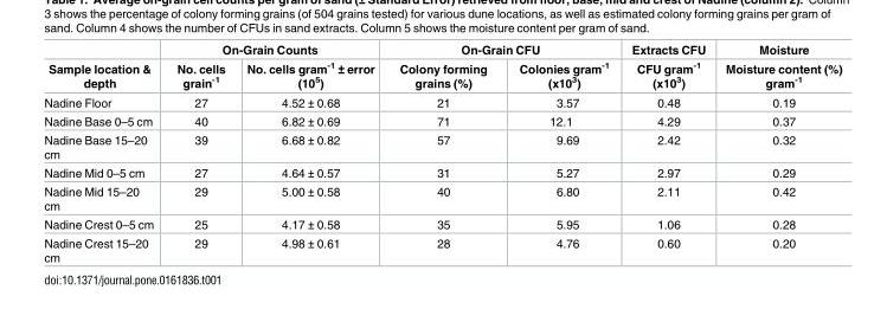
<table><thead><tr><td rowspan="2">Sample location &amp; depth</td><td colspan="2">On-Grain Counts</td><td colspan="2">On-Grain CFU</td><td rowspan="2">Extracts CFU CFU gram<sup>-1</sup> (x10<sup>3</sup>)</td><td rowspan="2">Moisture Moisture content (%) gram<sup>-1</sup></td></tr><tr><td>No. cells grain<sup>-1</sup></td><td>No. cells gram<sup>-1</sup> ± error (10<sup>5</sup>)</td><td>Colony forming grains (%)</td><td>Colonies gram<sup>-1</sup> (x10<sup>3</sup>)</td></tr></thead><tbody><tr><td>Nadine Floor</td><td>27</td><td>4.52 ± 0.68</td><td>21</td><td>3.57</td><td>0.48</td><td>0.19</td></tr><tr><td>Nadine Base 0–5 cm</td><td>40</td><td>6.82 ± 0.69</td><td>71</td><td>12.1</td><td>4.29</td><td>0.37</td></tr><tr><td>Nadine Base 15–20 cm</td><td>39</td><td>6.68 ± 0.82</td><td>57</td><td>9.69</td><td>2.42</td><td>0.32</td></tr><tr><td>Nadine Mid 0–5 cm</td><td>27</td><td>4.64 ± 0.57</td><td>31</td><td>5.27</td><td>2.97</td><td>0.29</td></tr><tr><td>Nadine Mid 15–20 cm</td><td>29</td><td>5.00 ± 0.58</td><td>40</td><td>6.80</td><td>2.11</td><td>0.42</td></tr><tr><td>Nadine Crest 0–5 cm</td><td>25</td><td>4.17 ± 0.58</td><td>35</td><td>5.95</td><td>1.06</td><td>0.28</td></tr><tr><td>Nadine Crest 15–20 cm</td><td>29</td><td>4.98 ± 0.61</td><td>28</td><td>4.76</td><td>0.60</td><td>0.20</td></tr></tbody></table>